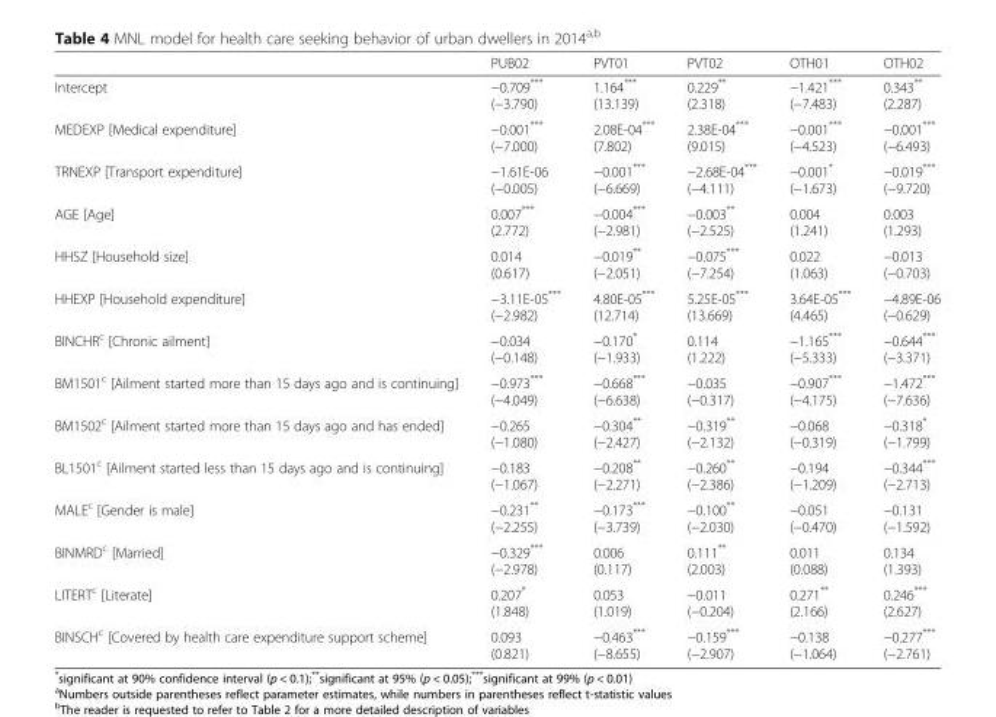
<table><thead><tr><td></td><td>PUB02</td><td>PVT01</td><td>PVT02</td><td>OTH01</td><td>OTH02</td></tr></thead><tbody><tr><td>Intercept</td><td>−0.709*** (−3.790)</td><td>1.164*** (13.139)</td><td>0.229** (2.318)</td><td>−1.421*** (−7.483)</td><td>0.343** (2.287)</td></tr><tr><td>MEDEXP [Medical expenditure]</td><td>−0.001*** (−7.000)</td><td>2.08E-04*** (7.802)</td><td>2.38E-04*** (9.015)</td><td>−0.001*** (−4.523)</td><td>−0.001*** (−6.493)</td></tr><tr><td>TRNEXP [Transport expenditure]</td><td>−1.61E-06 (−0.005)</td><td>−0.001*** (−6.669)</td><td>−2.68E-04*** (−4.111)</td><td>−0.001* (−1.673)</td><td>−0.019*** (−9.720)</td></tr><tr><td>AGE [Age]</td><td>0.007*** (2.772)</td><td>−0.004*** (−2.981)</td><td>−0.003** (−2.525)</td><td>0.004 (1.241)</td><td>0.003 (1.293)</td></tr><tr><td>HHSZ [Household size]</td><td>0.014 (0.617)</td><td>−0.019** (−2.051)</td><td>−0.075*** (−7.254)</td><td>0.022 (1.063)</td><td>−0.013 (−0.703)</td></tr><tr><td>HHEXP [Household expenditure]</td><td>−3.11E-05*** (−2.982)</td><td>4.80E-05*** (12.714)</td><td>5.25E-05*** (13.669)</td><td>3.64E-05*** (4.465)</td><td>−4.89E-06 (−0.629)</td></tr><tr><td>BINCHR<sup>c</sup> [Chronic ailment]</td><td>−0.034 (−0.148)</td><td>−0.170* (−1.933)</td><td>0.114 (1.222)</td><td>−1.165*** (−5.333)</td><td>−0.644*** (−3.371)</td></tr><tr><td>BM1501<sup>c</sup> [Ailment started more than 15 days ago and is continuing]</td><td>−0.973*** (−4.049)</td><td>−0.668*** (−6.638)</td><td>−0.035 (−0.317)</td><td>−0.907*** (−4.175)</td><td>−1.472*** (−7.636)</td></tr><tr><td>BM1502<sup>c</sup> [Ailment started more than 15 days ago and has ended]</td><td>−0.265 (−1.080)</td><td>−0.304** (−2.427)</td><td>−0.319** (−2.132)</td><td>−0.068 (−0.319)</td><td>−0.318* (−1.799)</td></tr><tr><td>BL1501<sup>c</sup> [Ailment started less than 15 days ago and is continuing]</td><td>−0.183 (−1.067)</td><td>−0.208** (−2.271)</td><td>−0.260** (−2.386)</td><td>−0.194 (−1.209)</td><td>−0.344*** (−2.713)</td></tr><tr><td>MALE<sup>c</sup> [Gender is male]</td><td>−0.231** (−2.255)</td><td>−0.173*** (−3.739)</td><td>−0.100** (−2.030)</td><td>−0.051 (−0.470)</td><td>−0.131 (−1.592)</td></tr><tr><td>BINMRD<sup>c</sup> [Married]</td><td>−0.329*** (−2.978)</td><td>0.006 (0.117)</td><td>0.111** (2.003)</td><td>0.011 (0.088)</td><td>0.134 (1.393)</td></tr><tr><td>LITERT<sup>c</sup> [Literate]</td><td>0.207* (1.848)</td><td>0.053 (1.019)</td><td>−0.011 (−0.204)</td><td>0.271** (2.166)</td><td>0.246*** (2.627)</td></tr><tr><td>BINSCH<sup>c</sup> [Covered by health care expenditure support scheme]</td><td>0.093 (0.821)</td><td>−0.463*** (−8.655)</td><td>−0.159*** (−2.907)</td><td>−0.138 (−1.064)</td><td>−0.277*** (−2.761)</td></tr></tbody></table>